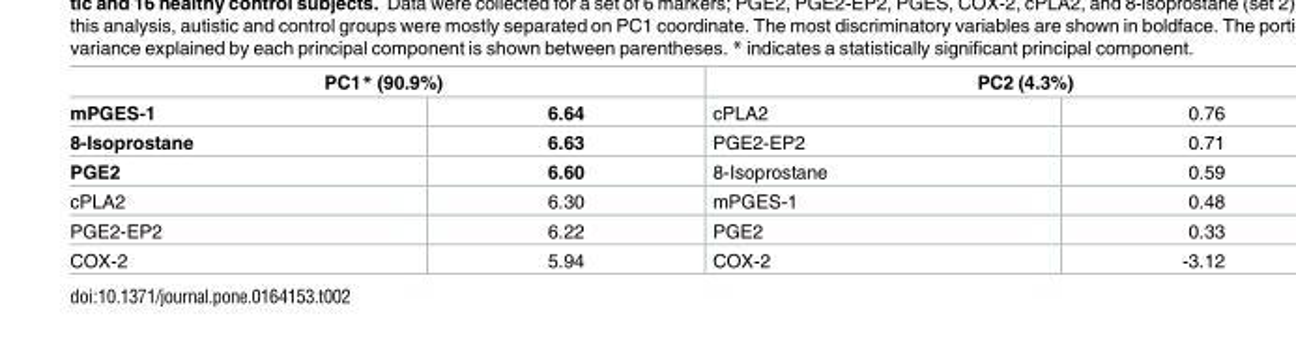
<table><thead><tr><td colspan="2">PC1* (90.9%)</td><td colspan="2">PC2 (4.3%)</td></tr><tr><td>mPGES-1</td><td>6.64</td><td>cPLA2</td><td>0.76</td></tr></thead><tbody><tr><td>8-Isoprostane</td><td>6.63</td><td>PGE2-EP2</td><td>0.71</td></tr><tr><td>PGE2</td><td>6.60</td><td>8-Isoprostane</td><td>0.59</td></tr><tr><td>cPLA2</td><td>6.30</td><td>mPGES-1</td><td>0.48</td></tr><tr><td>PGE2-EP2</td><td>6.22</td><td>PGE2</td><td>0.33</td></tr><tr><td>COX-2</td><td>5.94</td><td>COX-2</td><td>-3.12</td></tr></tbody></table>